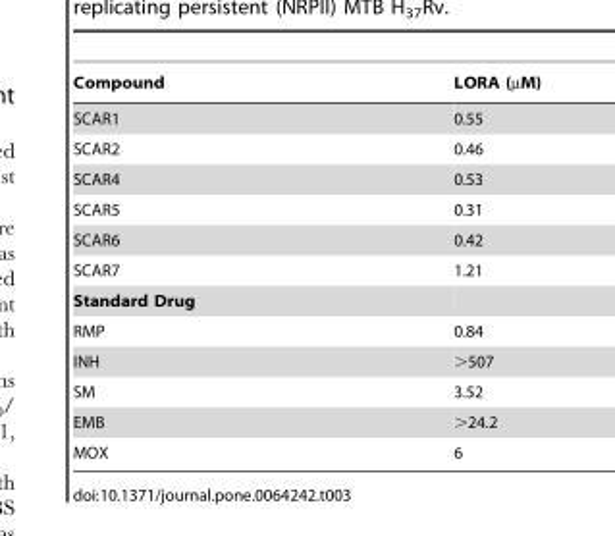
<table><thead><tr><td>Compound</td><td>LORA (µM)</td></tr></thead><tbody><tr><td>SCAR1</td><td>0.55</td></tr><tr><td>SCAR2</td><td>0.46</td></tr><tr><td>SCAR4</td><td>0.53</td></tr><tr><td>SCAR5</td><td>0.31</td></tr><tr><td>SCAR6</td><td>0.42</td></tr><tr><td>SCAR7</td><td>1.21</td></tr><tr><td colspan="2">Standard Drug</td></tr><tr><td>RMP</td><td>0.84</td></tr><tr><td>INH</td><td>&gt;507</td></tr><tr><td>SM</td><td>3.52</td></tr><tr><td>EMB</td><td>&gt;24.2</td></tr><tr><td>MOX</td><td>6</td></tr></tbody></table>